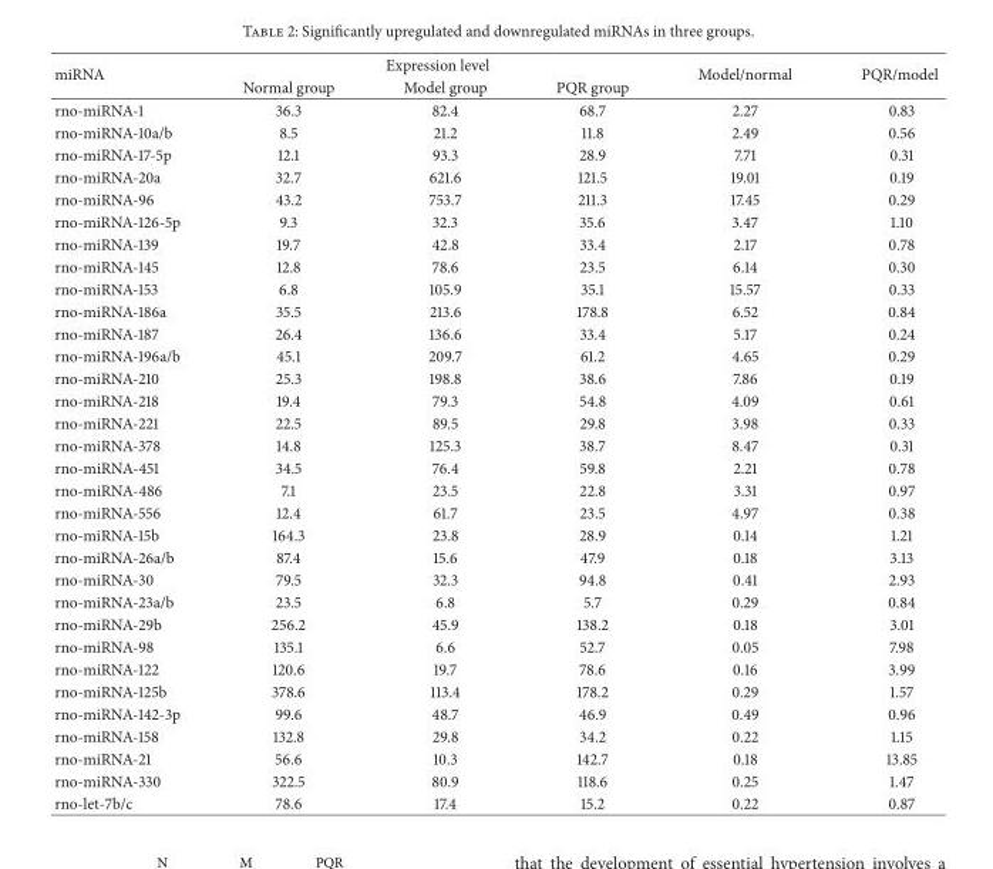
<table><thead><tr><td rowspan="2">miRNA</td><td colspan="3">Expression level</td><td rowspan="2">Model/normal</td><td rowspan="2">PQR/model</td></tr><tr><td>Normal group</td><td>Model group</td><td>PQR group</td></tr></thead><tbody><tr><td>rno-miRNA-1</td><td>36.3</td><td>82.4</td><td>68.7</td><td>2.27</td><td>0.83</td></tr><tr><td>rno-miRNA-10a/b</td><td>8.5</td><td>21.2</td><td>11.8</td><td>2.49</td><td>0.56</td></tr><tr><td>rno-miRNA-17-5p</td><td>12.1</td><td>93.3</td><td>28.9</td><td>7.71</td><td>0.31</td></tr><tr><td>rno-miRNA-20a</td><td>32.7</td><td>621.6</td><td>121.5</td><td>19.01</td><td>0.19</td></tr><tr><td>rno-miRNA-96</td><td>43.2</td><td>753.7</td><td>211.3</td><td>17.45</td><td>0.29</td></tr><tr><td>rno-miRNA-126-5p</td><td>9.3</td><td>32.3</td><td>35.6</td><td>3.47</td><td>1.10</td></tr><tr><td>rno-miRNA-139</td><td>19.7</td><td>42.8</td><td>33.4</td><td>2.17</td><td>0.78</td></tr><tr><td>rno-miRNA-145</td><td>12.8</td><td>78.6</td><td>23.5</td><td>6.14</td><td>0.30</td></tr><tr><td>rno-miRNA-153</td><td>6.8</td><td>105.9</td><td>35.1</td><td>15.57</td><td>0.33</td></tr><tr><td>rno-miRNA-186a</td><td>35.5</td><td>213.6</td><td>178.8</td><td>6.52</td><td>0.84</td></tr><tr><td>rno-miRNA-187</td><td>26.4</td><td>136.6</td><td>33.4</td><td>5.17</td><td>0.24</td></tr><tr><td>rno-miRNA-196a/b</td><td>45.1</td><td>209.7</td><td>61.2</td><td>4.65</td><td>0.29</td></tr><tr><td>rno-miRNA-210</td><td>25.3</td><td>198.8</td><td>38.6</td><td>7.86</td><td>0.19</td></tr><tr><td>rno-miRNA-218</td><td>19.4</td><td>79.3</td><td>54.8</td><td>4.09</td><td>0.61</td></tr><tr><td>rno-miRNA-221</td><td>22.5</td><td>89.5</td><td>29.8</td><td>3.98</td><td>0.33</td></tr><tr><td>rno-miRNA-378</td><td>14.8</td><td>125.3</td><td>38.7</td><td>8.47</td><td>0.31</td></tr><tr><td>rno-miRNA-451</td><td>34.5</td><td>76.4</td><td>59.8</td><td>2.21</td><td>0.78</td></tr><tr><td>rno-miRNA-486</td><td>7.1</td><td>23.5</td><td>22.8</td><td>3.31</td><td>0.97</td></tr><tr><td>rno-miRNA-556</td><td>12.4</td><td>61.7</td><td>23.5</td><td>4.97</td><td>0.38</td></tr><tr><td>rno-miRNA-15b</td><td>164.3</td><td>23.8</td><td>28.9</td><td>0.14</td><td>1.21</td></tr><tr><td>rno-miRNA-26a/b</td><td>87.4</td><td>15.6</td><td>47.9</td><td>0.18</td><td>3.13</td></tr><tr><td>rno-miRNA-30</td><td>79.5</td><td>32.3</td><td>94.8</td><td>0.41</td><td>2.93</td></tr><tr><td>rno-miRNA-23a/b</td><td>23.5</td><td>6.8</td><td>5.7</td><td>0.29</td><td>0.84</td></tr><tr><td>rno-miRNA-29b</td><td>256.2</td><td>45.9</td><td>138.2</td><td>0.18</td><td>3.01</td></tr><tr><td>rno-miRNA-98</td><td>135.1</td><td>6.6</td><td>52.7</td><td>0.05</td><td>7.98</td></tr><tr><td>rno-miRNA-122</td><td>120.6</td><td>19.7</td><td>78.6</td><td>0.16</td><td>3.99</td></tr><tr><td>rno-miRNA-125b</td><td>378.6</td><td>113.4</td><td>178.2</td><td>0.29</td><td>1.57</td></tr><tr><td>rno-miRNA-142-3p</td><td>99.6</td><td>48.7</td><td>46.9</td><td>0.49</td><td>0.96</td></tr><tr><td>rno-miRNA-158</td><td>132.8</td><td>29.8</td><td>34.2</td><td>0.22</td><td>1.15</td></tr><tr><td>rno-miRNA-21</td><td>56.6</td><td>10.3</td><td>142.7</td><td>0.18</td><td>13.85</td></tr><tr><td>rno-miRNA-330</td><td>322.5</td><td>80.9</td><td>118.6</td><td>0.25</td><td>1.47</td></tr><tr><td>rno-let-7b/c</td><td>78.6</td><td>17.4</td><td>15.2</td><td>0.22</td><td>0.87</td></tr></tbody></table>